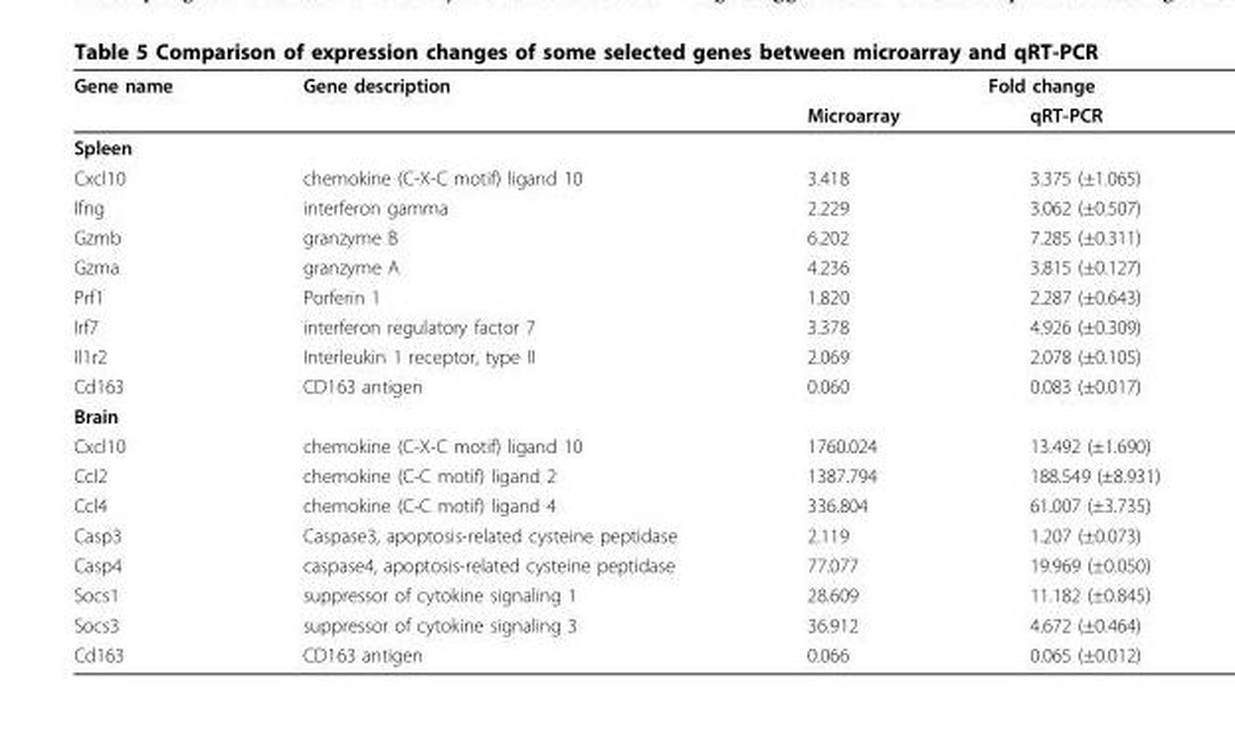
<table><thead><tr><td rowspan="2">Gene name</td><td rowspan="2">Gene description</td><td colspan="2">Fold change</td></tr><tr><td>Microarray</td><td>qRT-PCR</td></tr></thead><tbody><tr><td colspan="4">Spleen</td></tr><tr><td>Cxcl10</td><td>chemokine (C-X-C motif) ligand 10</td><td>3.418</td><td>3.375 (±1.065)</td></tr><tr><td>Ifng</td><td>interferon gamma</td><td>2.229</td><td>3.062 (±0.507)</td></tr><tr><td>Gzmb</td><td>granzyme B</td><td>6.202</td><td>7.285 (±0.311)</td></tr><tr><td>Gzma</td><td>granzyme A</td><td>4.236</td><td>3.815 (±0.127)</td></tr><tr><td>Prf1</td><td>Porferin 1</td><td>1.820</td><td>2.287 (±0.643)</td></tr><tr><td>Irf7</td><td>interferon regulatory factor 7</td><td>3.378</td><td>4.926 (±0.309)</td></tr><tr><td>Il1r2</td><td>Interleukin 1 receptor, type II</td><td>2.069</td><td>2.078 (±0.105)</td></tr><tr><td>Cd163</td><td>CD163 antigen</td><td>0.060</td><td>0.083 (±0.017)</td></tr><tr><td colspan="4">Brain</td></tr><tr><td>Cxcl10</td><td>chemokine (C-X-C motif) ligand 10</td><td>1760.024</td><td>13.492 (±1.690)</td></tr><tr><td>Ccl2</td><td>chemokine (C-C motif) ligand 2</td><td>1387.794</td><td>188.549 (±8.931)</td></tr><tr><td>Ccl4</td><td>chemokine (C-C motif) ligand 4</td><td>336.804</td><td>61.007 (±3.735)</td></tr><tr><td>Casp3</td><td>Caspase3, apoptosis-related cysteine peptidase</td><td>2.119</td><td>1.207 (±0.073)</td></tr><tr><td>Casp4</td><td>caspase4, apoptosis-related cysteine peptidase</td><td>77.077</td><td>19.969 (±0.050)</td></tr><tr><td>Socs1</td><td>suppressor of cytokine signaling 1</td><td>28.609</td><td>11.182 (±0.845)</td></tr><tr><td>Socs3</td><td>suppressor of cytokine signaling 3</td><td>36.912</td><td>4.672 (±0.464)</td></tr><tr><td>Cd163</td><td>CD163 antigen</td><td>0.066</td><td>0.065 (±0.012)</td></tr></tbody></table>